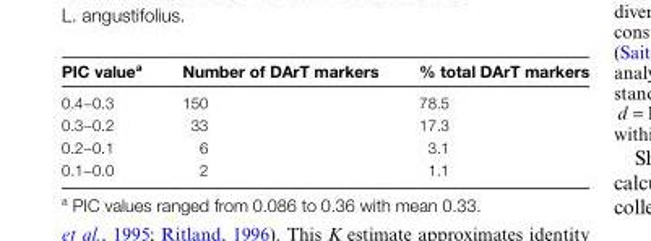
<table><thead><tr><td>PIC value<sup>a</sup></td><td>Number of DArT markers</td><td>% total DArT markers</td></tr></thead><tbody><tr><td>0.4−0.3</td><td>150</td><td>78.5</td></tr><tr><td>0.3−0.2</td><td>33</td><td>17.3</td></tr><tr><td>0.2−0.1</td><td>6</td><td>3.1</td></tr><tr><td>0.1−0.0</td><td>2</td><td>1.1</td></tr></tbody></table>